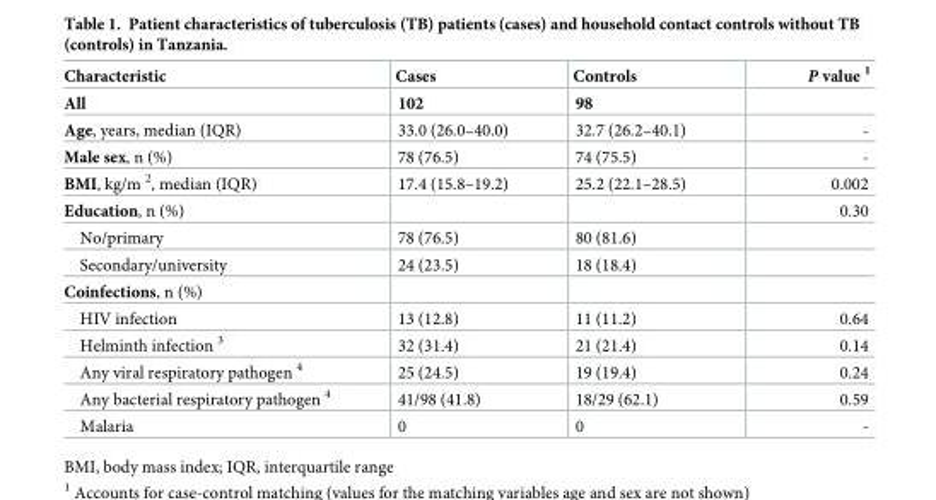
<table><thead><tr><td>Characteristic</td><td>Cases</td><td>Controls</td><td>P value <sup>1</sup></td></tr></thead><tbody><tr><td>All</td><td>102</td><td>98</td><td></td></tr><tr><td>Age, years, median (IQR)</td><td>33.0 (26.0–40.0)</td><td>32.7 (26.2–40.1)</td><td>-</td></tr><tr><td>Male sex, n (%)</td><td>78 (76.5)</td><td>74 (75.5)</td><td>-</td></tr><tr><td>BMI, kg/m <sup>2</sup>, median (IQR)</td><td>17.4 (15.8–19.2)</td><td>25.2 (22.1–28.5)</td><td>0.002</td></tr><tr><td>Education, n (%)</td><td></td><td></td><td>0.30</td></tr><tr><td>No/primary</td><td>78 (76.5)</td><td>80 (81.6)</td><td></td></tr><tr><td>Secondary/university</td><td>24 (23.5)</td><td>18 (18.4)</td><td></td></tr><tr><td colspan="4">Coinfections, n (%)</td></tr><tr><td>HIV infection</td><td>13 (12.8)</td><td>11 (11.2)</td><td>0.64</td></tr><tr><td>Helminth infection <sup>3</sup></td><td>32 (31.4)</td><td>21 (21.4)</td><td>0.14</td></tr><tr><td>Any viral respiratory pathogen <sup>4</sup></td><td>25 (24.5)</td><td>19 (19.4)</td><td>0.24</td></tr><tr><td>Any bacterial respiratory pathogen <sup>4</sup></td><td>41/98 (41.8)</td><td>18/29 (62.1)</td><td>0.59</td></tr><tr><td>Malaria</td><td>0</td><td>0</td><td>-</td></tr></tbody></table>